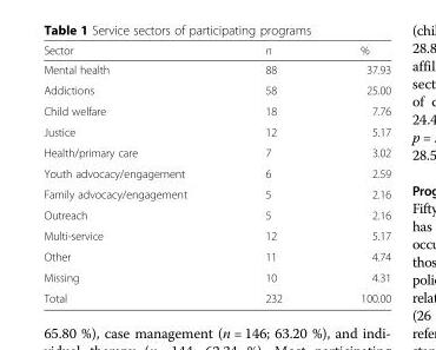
<table><thead><tr><td>Sector</td><td>n</td><td>%</td></tr></thead><tbody><tr><td>Mental health</td><td>88</td><td>37.93</td></tr><tr><td>Addictions</td><td>58</td><td>25.00</td></tr><tr><td>Child welfare</td><td>18</td><td>7.76</td></tr><tr><td>Justice</td><td>12</td><td>5.17</td></tr><tr><td>Health/primary care</td><td>7</td><td>3.02</td></tr><tr><td>Youth advocacy/engagement</td><td>6</td><td>2.59</td></tr><tr><td>Family advocacy/engagement</td><td>5</td><td>2.16</td></tr><tr><td>Outreach</td><td>5</td><td>2.16</td></tr><tr><td>Multi-service</td><td>12</td><td>5.17</td></tr><tr><td>Other</td><td>11</td><td>4.74</td></tr><tr><td>Missing</td><td>10</td><td>4.31</td></tr><tr><td>Total</td><td>232</td><td>100.00</td></tr></tbody></table>